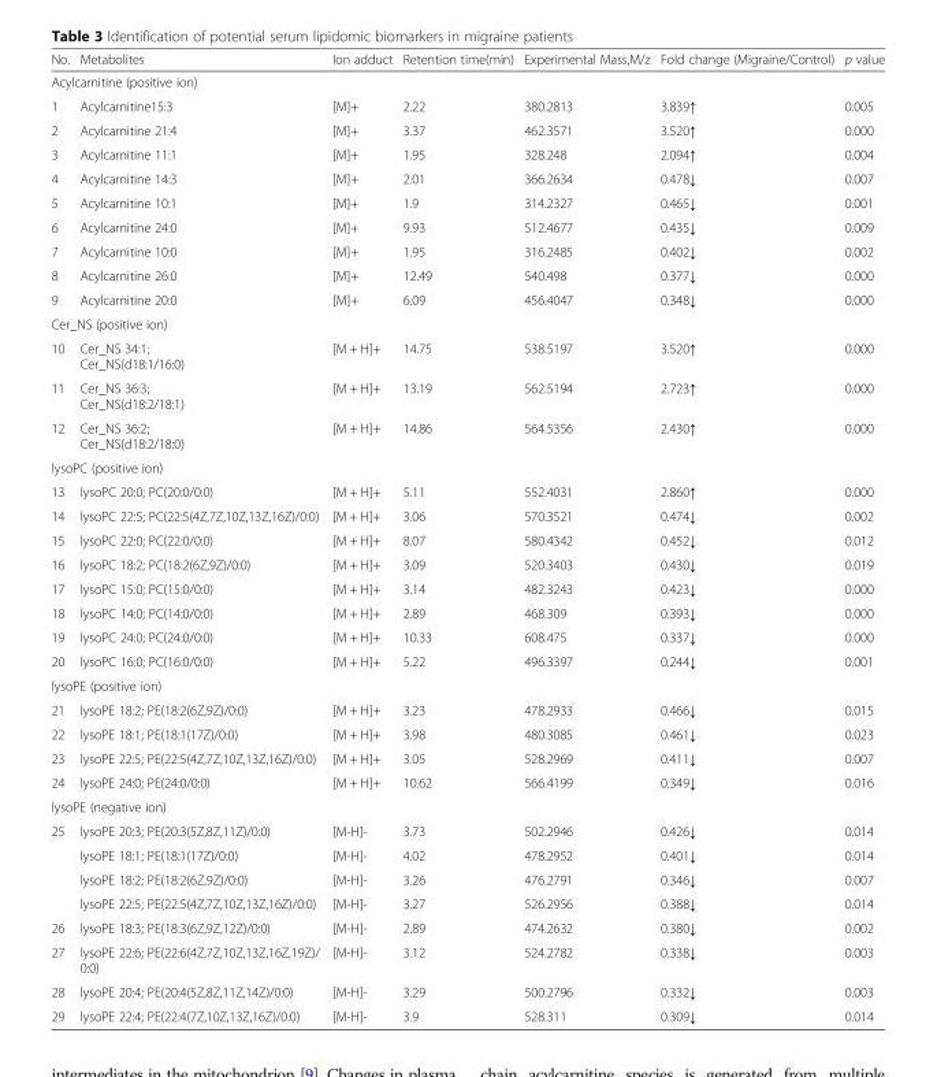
<table><thead><tr><td>No.</td><td>Metabolites</td><td>Ion adduct</td><td>Retention time(min)</td><td>Experimental Mass,M/z</td><td>Fold change (Migraine/Control)</td><td>p value</td></tr></thead><tbody><tr><td colspan="7">Acylcarnitine (positive ion)</td></tr><tr><td>1</td><td>Acylcarnitine15:3</td><td>[M]+</td><td>2.22</td><td>380.2813</td><td>3.839↑</td><td>0.005</td></tr><tr><td>2</td><td>Acylcarnitine 21:4</td><td>[M]+</td><td>3.37</td><td>462.3571</td><td>3.520↑</td><td>0.000</td></tr><tr><td>3</td><td>Acylcarnitine 11:1</td><td>[M]+</td><td>1.95</td><td>328.248</td><td>2.094↑</td><td>0.004</td></tr><tr><td>4</td><td>Acylcarnitine 14:3</td><td>[M]+</td><td>2.01</td><td>366.2634</td><td>0.478↓</td><td>0.007</td></tr><tr><td>5</td><td>Acylcarnitine 10:1</td><td>[M]+</td><td>1.9</td><td>314.2327</td><td>0.465↓</td><td>0.001</td></tr><tr><td>6</td><td>Acylcarnitine 24:0</td><td>[M]+</td><td>9.93</td><td>512.4677</td><td>0.435↓</td><td>0.009</td></tr><tr><td>7</td><td>Acylcarnitine 10:0</td><td>[M]+</td><td>1.95</td><td>316.2485</td><td>0.402↓</td><td>0.002</td></tr><tr><td>8</td><td>Acylcarnitine 26:0</td><td>[M]+</td><td>12.49</td><td>540.498</td><td>0.377↓</td><td>0.000</td></tr><tr><td>9</td><td>Acylcarnitine 20:0</td><td>[M]+</td><td>6.09</td><td>456.4047</td><td>0.348↓</td><td>0.000</td></tr><tr><td colspan="7">Cer_NS (positive ion)</td></tr><tr><td>10</td><td>Cer_NS 34:1; Cer_NS(d18:1/16:0)</td><td>[M + H]+</td><td>14.75</td><td>538.5197</td><td>3.520↑</td><td>0.000</td></tr><tr><td>11</td><td>Cer_NS 36:3; Cer_NS(d18:2/18:1)</td><td>[M + H]+</td><td>13.19</td><td>562.5194</td><td>2.723↑</td><td>0.000</td></tr><tr><td>12</td><td>Cer_NS 36:2; Cer_NS(d18:2/18:0)</td><td>[M + H]+</td><td>14.86</td><td>564.5356</td><td>2.430↑</td><td>0.000</td></tr><tr><td colspan="7">lysoPC (positive ion)</td></tr><tr><td>13</td><td>lysoPC 20:0; PC(20:0/0:0)</td><td>[M + H]+</td><td>5.11</td><td>552.4031</td><td>2.860↑</td><td>0.000</td></tr><tr><td>14</td><td>lysoPC 22:5; PC(22:5(4Z,7Z,10Z,13Z,16Z)/0:0)</td><td>[M + H]+</td><td>3.06</td><td>570.3521</td><td>0.474↓</td><td>0.002</td></tr><tr><td>15</td><td>lysoPC 22:0; PC(22:0/0:0)</td><td>[M + H]+</td><td>8.07</td><td>580.4342</td><td>0.452↓</td><td>0.012</td></tr><tr><td>16</td><td>lysoPC 18:2; PC(18:2(6Z,9Z)/0:0)</td><td>[M + H]+</td><td>3.09</td><td>520.3403</td><td>0.430↓</td><td>0.019</td></tr><tr><td>17</td><td>lysoPC 15:0; PC(15:0/0:0)</td><td>[M + H]+</td><td>3.14</td><td>482.3243</td><td>0.423↓</td><td>0.000</td></tr><tr><td>18</td><td>lysoPC 14:0; PC(14:0/0:0)</td><td>[M + H]+</td><td>2.89</td><td>468.309</td><td>0.393↓</td><td>0.000</td></tr><tr><td>19</td><td>lysoPC 24:0; PC(24:0/0:0)</td><td>[M + H]+</td><td>10.33</td><td>608.475</td><td>0.337↓</td><td>0.000</td></tr><tr><td>20</td><td>lysoPC 16:0; PC(16:0/0:0)</td><td>[M + H]+</td><td>5.22</td><td>496.3397</td><td>0.244↓</td><td>0.001</td></tr><tr><td colspan="7">lysoPE (positive ion)</td></tr><tr><td>21</td><td>lysoPE 18:2; PE(18:2(6Z,9Z)/0:0)</td><td>[M + H]+</td><td>3.23</td><td>478.2933</td><td>0.466↓</td><td>0.015</td></tr><tr><td>22</td><td>lysoPE 18:1; PE(18:1(17Z)/0:0)</td><td>[M + H]+</td><td>3.98</td><td>480.3085</td><td>0.461↓</td><td>0.023</td></tr><tr><td>23</td><td>lysoPE 22:5; PE(22:5(4Z,7Z,10Z,13Z,16Z)/0:0)</td><td>[M + H]+</td><td>3.05</td><td>528.2969</td><td>0.411↓</td><td>0.007</td></tr><tr><td>24</td><td>lysoPE 24:0; PE(24:0/0:0)</td><td>[M + H]+</td><td>10.62</td><td>566.4199</td><td>0.349↓</td><td>0.016</td></tr><tr><td colspan="7">lysoPE (negative ion)</td></tr><tr><td rowspan="4">25</td><td>lysoPE 20:3; PE(20:3(5Z,8Z,11Z)/0:0)</td><td>[M-H]-</td><td>3.73</td><td>502.2946</td><td>0.426↓</td><td>0.014</td></tr><tr><td>lysoPE 18:1; PE(18:1(17Z)/0:0)</td><td>[M-H]-</td><td>4.02</td><td>478.2952</td><td>0.401↓</td><td>0.014</td></tr><tr><td>lysoPE 18:2; PE(18:2(6Z,9Z)/0:0)</td><td>[M-H]-</td><td>3.26</td><td>476.2791</td><td>0.346↓</td><td>0.007</td></tr><tr><td>lysoPE 22:5; PE(22:5(4Z,7Z,10Z,13Z,16Z)/0:0)</td><td>[M-H]-</td><td>3.27</td><td>526.2956</td><td>0.388↓</td><td>0.014</td></tr><tr><td>26</td><td>lysoPE 18:3; PE(18:3(6Z,9Z,12Z)/0:0)</td><td>[M-H]-</td><td>2.89</td><td>474.2632</td><td>0.380↓</td><td>0.002</td></tr><tr><td>27</td><td>lysoPE 22:6; PE(22:6(4Z,7Z,10Z,13Z,16Z,19Z)/ 0:0)</td><td>[M-H]-</td><td>3.12</td><td>524.2782</td><td>0.338↓</td><td>0.003</td></tr><tr><td>28</td><td>lysoPE 20:4; PE(20:4(5Z,8Z,11Z,14Z)/0:0)</td><td>[M-H]-</td><td>3.29</td><td>500.2796</td><td>0.332↓</td><td>0.003</td></tr><tr><td>29</td><td>lysoPE 22:4; PE(22:4(7Z,10Z,13Z,16Z)/0:0)</td><td>[M-H]-</td><td>3.9</td><td>528.311</td><td>0.309↓</td><td>0.014</td></tr></tbody></table>